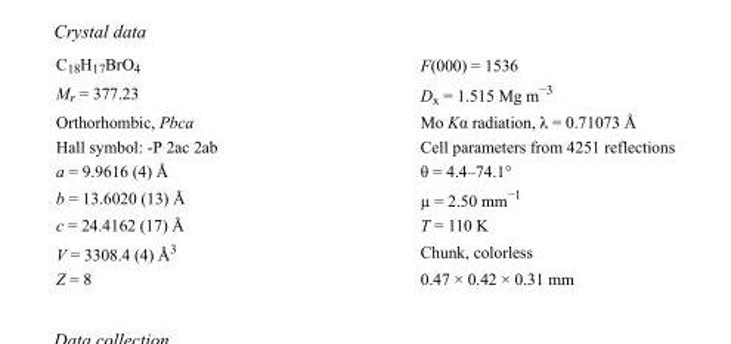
<table><tbody><tr><td>C<sub>18</sub>H<sub>17</sub>BrO<sub>4</sub></td><td>F(000) = 1536</td></tr><tr><td>M<sub>r</sub> = 377.23</td><td>D<sub>x</sub> = 1.515 Mg m<sup>−3</sup></td></tr><tr><td>Orthorhombic, Pbca</td><td>Mo Kα radiation, λ = 0.71073 Å</td></tr><tr><td>Hall symbol: -P 2ac 2ab</td><td>Cell parameters from 4251 reflections</td></tr><tr><td>a = 9.9616 (4) Å</td><td>θ = 4.4–74.1°</td></tr><tr><td>b = 13.6020 (13) Å</td><td>µ = 2.50 mm<sup>−1</sup></td></tr><tr><td>c = 24.4162 (17) Å</td><td>T = 110 K</td></tr><tr><td>V = 3308.4 (4) Å<sup>3</sup></td><td>Chunk, colorless</td></tr><tr><td>Z = 8</td><td>0.47 × 0.42 × 0.31 mm</td></tr></tbody></table>